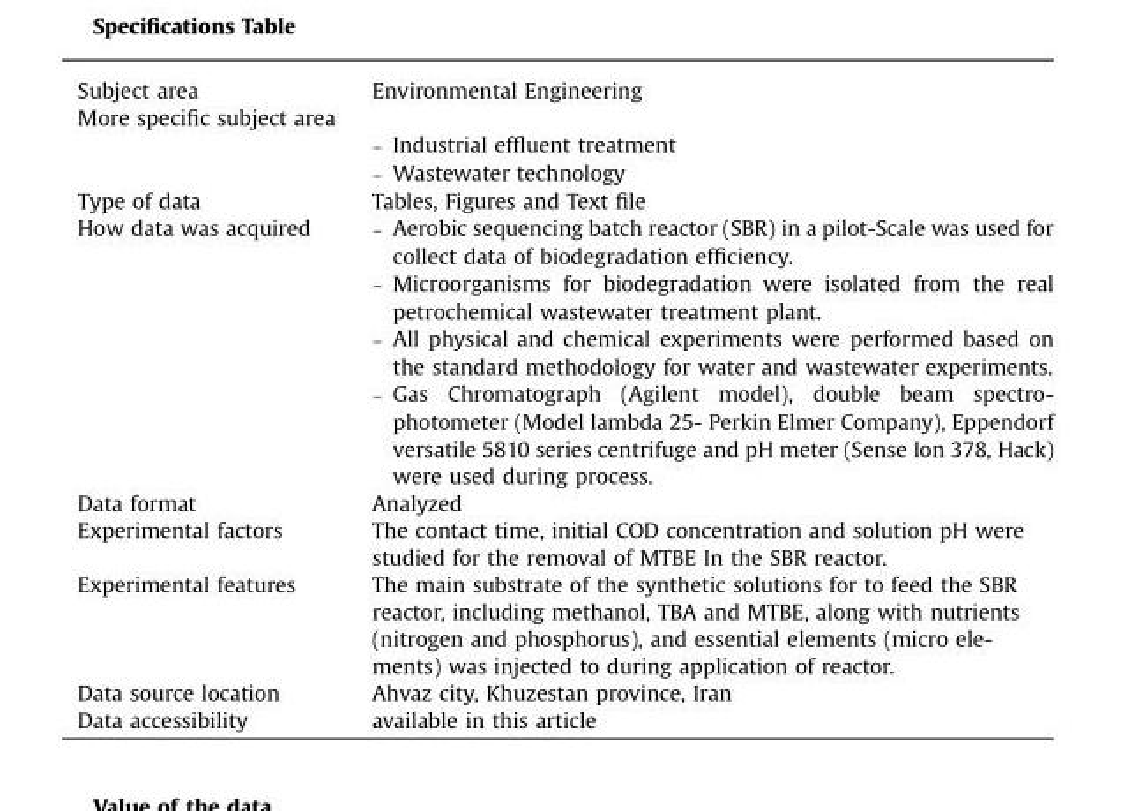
<table><tbody><tr><td>Subject area</td><td>Environmental Engineering</td></tr><tr><td>More specific subject area</td><td>– Industrial effluent treatment – Wastewater technology</td></tr><tr><td>Type of data</td><td>Tables, Figures and Text file</td></tr><tr><td>How data was acquired</td><td>– Aerobic sequencing batch reactor (SBR) in a pilot-Scale was used for collect data of biodegradation efficiency. – Microorganisms for biodegradation were isolated from the real petrochemical wastewater treatment plant. – All physical and chemical experiments were performed based on the standard methodology for water and wastewater experiments. – Gas Chromatograph (Agilent model), double beam spectro- photometer (Model lambda 25- Perkin Elmer Company), Eppendorf versatile 5810 series centrifuge and pH meter (Sense Ion 378, Hack) were used during process.</td></tr><tr><td>Data format</td><td>Analyzed</td></tr><tr><td>Experimental factors</td><td>The contact time, initial COD concentration and solution pH were studied for the removal of MTBE In the SBR reactor.</td></tr><tr><td>Experimental features</td><td>The main substrate of the synthetic solutions for to feed the SBR reactor, including methanol, TBA and MTBE, along with nutrients (nitrogen and phosphorus), and essential elements (micro ele- ments) was injected to during application of reactor.</td></tr><tr><td>Data source location</td><td>Ahvaz city, Khuzestan province, Iran</td></tr><tr><td>Data accessibility</td><td>available in this article</td></tr></tbody></table>